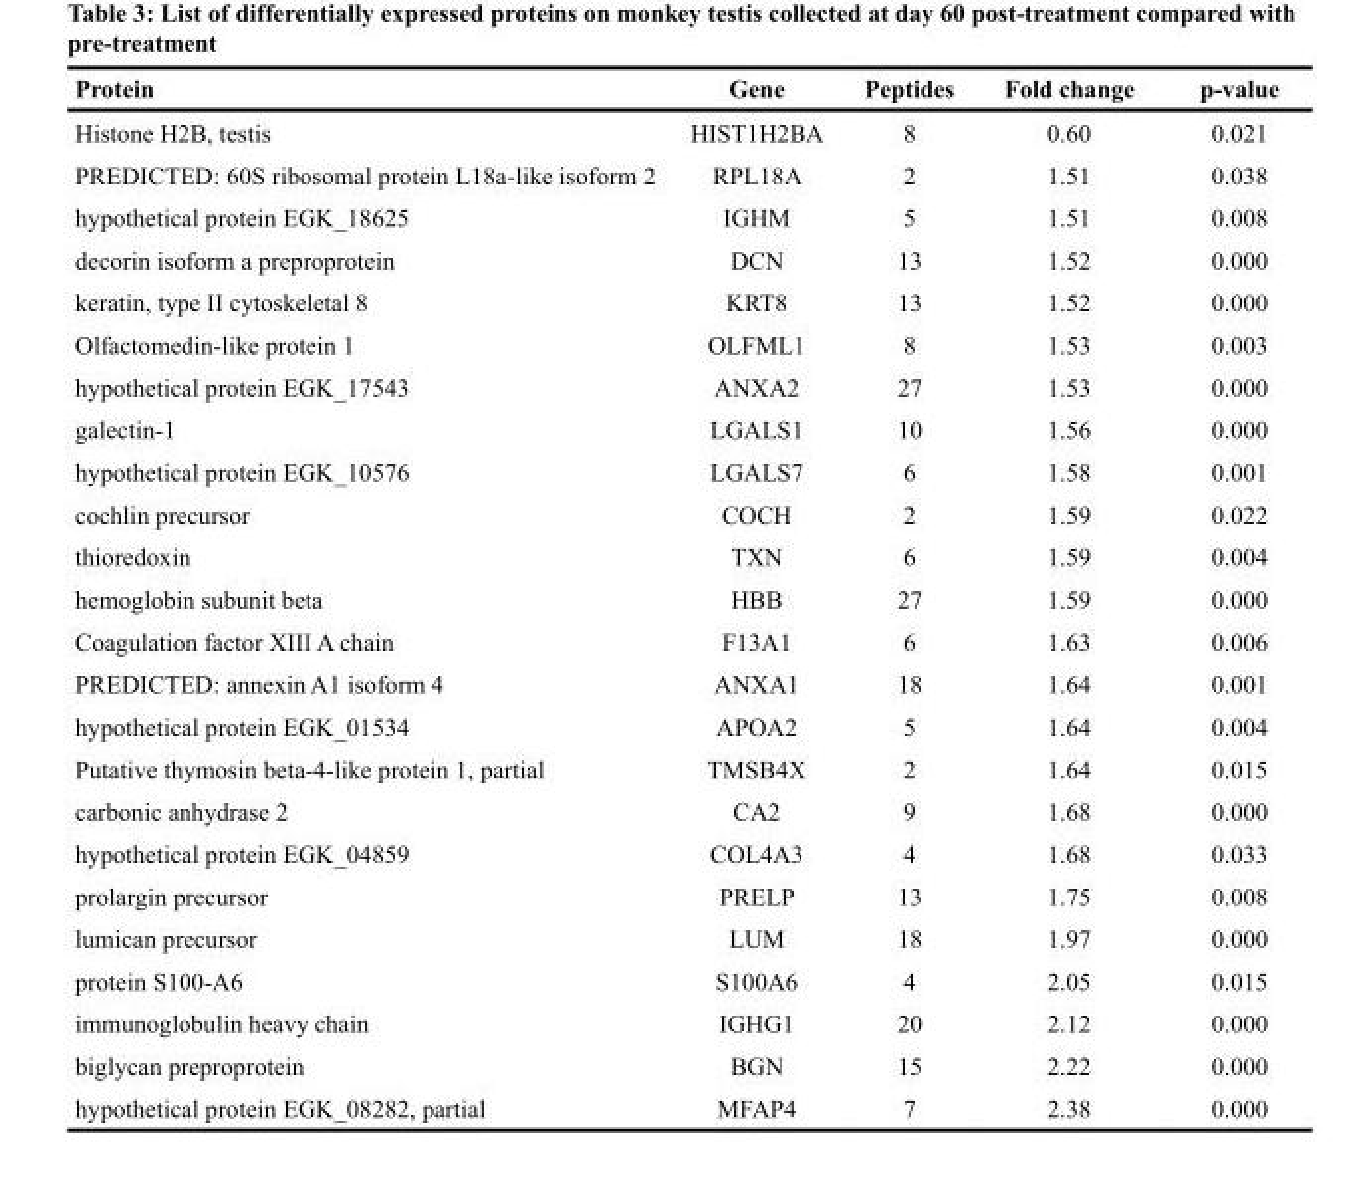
<table><thead><tr><td>Protein</td><td>Gene</td><td>Peptides</td><td>Fold change</td><td>p-value</td></tr></thead><tbody><tr><td>Histone H2B, testis</td><td>HIST1H2BA</td><td>8</td><td>0.60</td><td>0.021</td></tr><tr><td>PREDICTED: 60S ribosomal protein L18a-like isoform 2</td><td>RPL18A</td><td>2</td><td>1.51</td><td>0.038</td></tr><tr><td>hypothetical protein EGK_18625</td><td>IGHM</td><td>5</td><td>1.51</td><td>0.008</td></tr><tr><td>decorin isoform a preproprotein</td><td>DCN</td><td>13</td><td>1.52</td><td>0.000</td></tr><tr><td>keratin, type II cytoskeletal 8</td><td>KRT8</td><td>13</td><td>1.52</td><td>0.000</td></tr><tr><td>Olfactomedin-like protein 1</td><td>OLFML1</td><td>8</td><td>1.53</td><td>0.003</td></tr><tr><td>hypothetical protein EGK_17543</td><td>ANXA2</td><td>27</td><td>1.53</td><td>0.000</td></tr><tr><td>galectin-1</td><td>LGALS1</td><td>10</td><td>1.56</td><td>0.000</td></tr><tr><td>hypothetical protein EGK_10576</td><td>LGALS7</td><td>6</td><td>1.58</td><td>0.001</td></tr><tr><td>cochlin precursor</td><td>COCH</td><td>2</td><td>1.59</td><td>0.022</td></tr><tr><td>thioredoxin</td><td>TXN</td><td>6</td><td>1.59</td><td>0.004</td></tr><tr><td>hemoglobin subunit beta</td><td>HBB</td><td>27</td><td>1.59</td><td>0.000</td></tr><tr><td>Coagulation factor XIII A chain</td><td>F13A1</td><td>6</td><td>1.63</td><td>0.006</td></tr><tr><td>PREDICTED: annexin A1 isoform 4</td><td>ANXA1</td><td>18</td><td>1.64</td><td>0.001</td></tr><tr><td>hypothetical protein EGK_01534</td><td>APOA2</td><td>5</td><td>1.64</td><td>0.004</td></tr><tr><td>Putative thymosin beta-4-like protein 1, partial</td><td>TMSB4X</td><td>2</td><td>1.64</td><td>0.015</td></tr><tr><td>carbonic anhydrase 2</td><td>CA2</td><td>9</td><td>1.68</td><td>0.000</td></tr><tr><td>hypothetical protein EGK_04859</td><td>COL4A3</td><td>4</td><td>1.68</td><td>0.033</td></tr><tr><td>prolargin precursor</td><td>PRELP</td><td>13</td><td>1.75</td><td>0.008</td></tr><tr><td>lumican precursor</td><td>LUM</td><td>18</td><td>1.97</td><td>0.000</td></tr><tr><td>protein S100-A6</td><td>S100A6</td><td>4</td><td>2.05</td><td>0.015</td></tr><tr><td>immunoglobulin heavy chain</td><td>IGHG1</td><td>20</td><td>2.12</td><td>0.000</td></tr><tr><td>biglycan preproprotein</td><td>BGN</td><td>15</td><td>2.22</td><td>0.000</td></tr><tr><td>hypothetical protein EGK_08282, partial</td><td>MFAP4</td><td>7</td><td>2.38</td><td>0.000</td></tr></tbody></table>